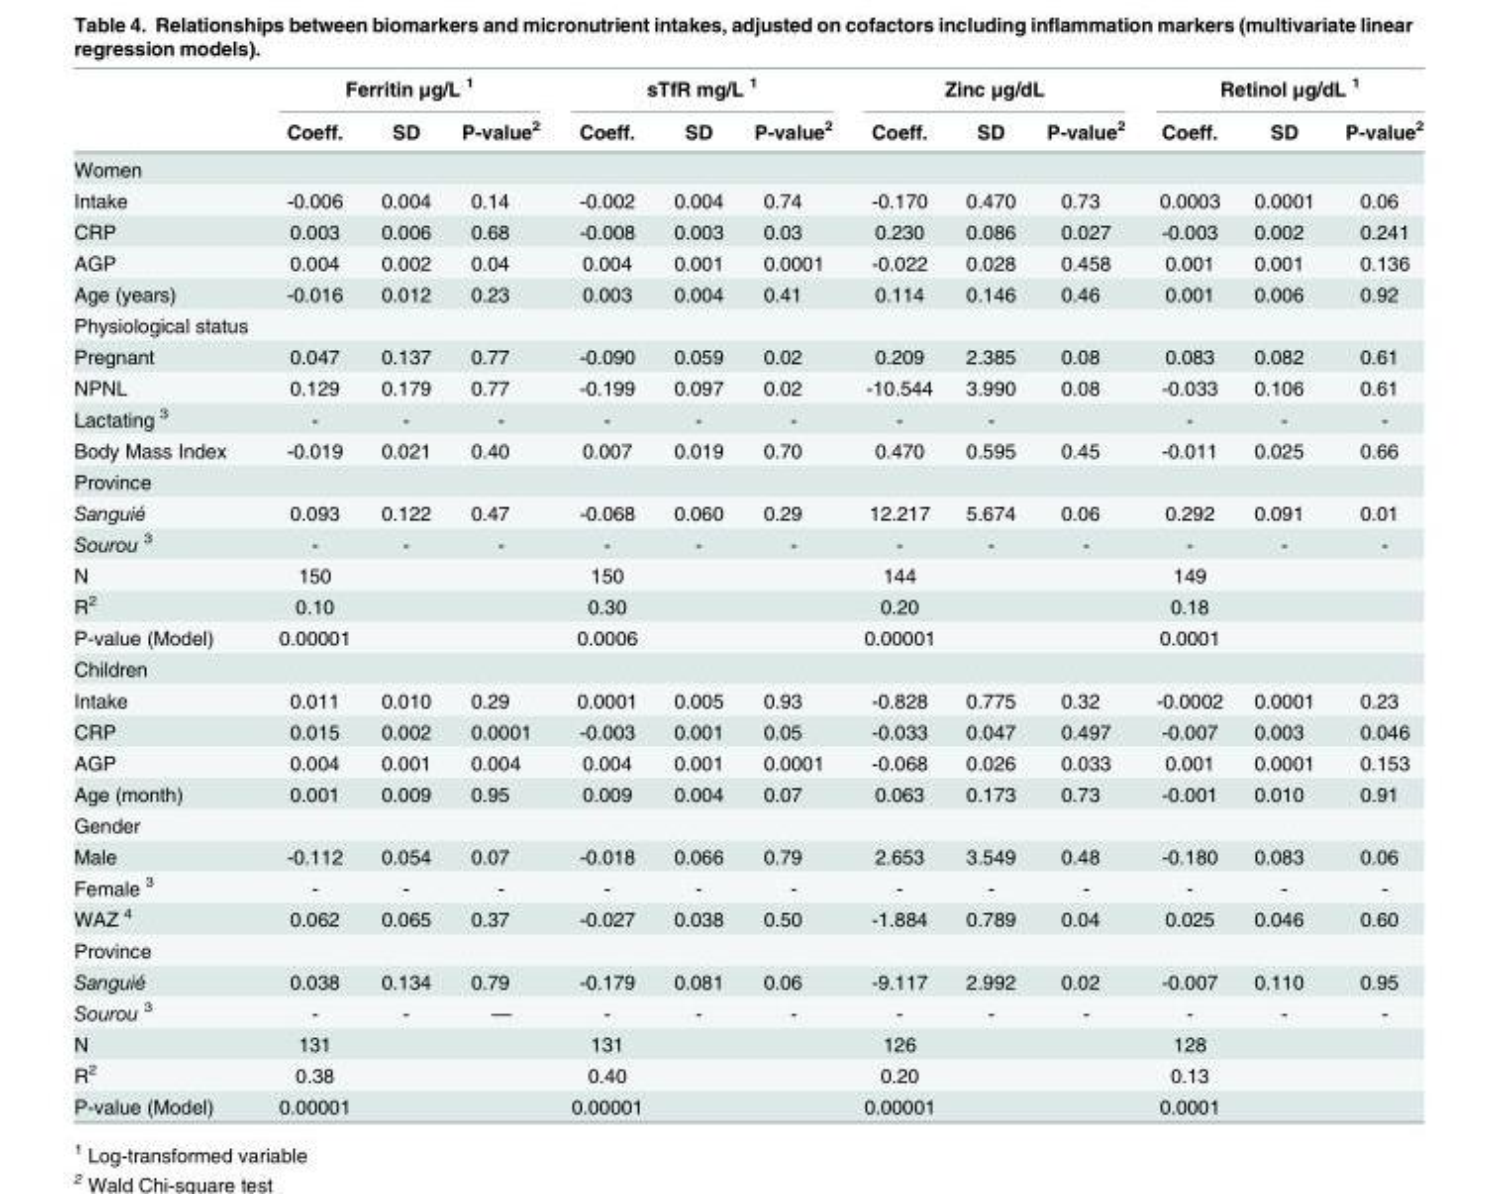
<table><thead><tr><td rowspan="2"></td><td colspan="3">Ferritin μg/L <sup>1</sup></td><td colspan="3">sTfR mg/L <sup>1</sup></td><td colspan="3">Zinc μg/dL</td><td colspan="3">Retinol μg/dL <sup>1</sup></td></tr><tr><td>Coeff.</td><td>SD</td><td>P-value<sup>2</sup></td><td>Coeff.</td><td>SD</td><td>P-value<sup>2</sup></td><td>Coeff.</td><td>SD</td><td>P-value<sup>2</sup></td><td>Coeff.</td><td>SD</td><td>P-value<sup>2</sup></td></tr></thead><tbody><tr><td colspan="13">Women</td></tr><tr><td>Intake</td><td>-0.006</td><td>0.004</td><td>0.14</td><td>-0.002</td><td>0.004</td><td>0.74</td><td>-0.170</td><td>0.470</td><td>0.73</td><td>0.0003</td><td>0.0001</td><td>0.06</td></tr><tr><td>CRP</td><td>0.003</td><td>0.006</td><td>0.68</td><td>-0.008</td><td>0.003</td><td>0.03</td><td>0.230</td><td>0.086</td><td>0.027</td><td>-0.003</td><td>0.002</td><td>0.241</td></tr><tr><td>AGP</td><td>0.004</td><td>0.002</td><td>0.04</td><td>0.004</td><td>0.001</td><td>0.0001</td><td>-0.022</td><td>0.028</td><td>0.458</td><td>0.001</td><td>0.001</td><td>0.136</td></tr><tr><td>Age (years)</td><td>-0.016</td><td>0.012</td><td>0.23</td><td>0.003</td><td>0.004</td><td>0.41</td><td>0.114</td><td>0.146</td><td>0.46</td><td>0.001</td><td>0.006</td><td>0.92</td></tr><tr><td colspan="13">Physiological status</td></tr><tr><td>Pregnant</td><td>0.047</td><td>0.137</td><td>0.77</td><td>-0.090</td><td>0.059</td><td>0.02</td><td>0.209</td><td>2.385</td><td>0.08</td><td>0.083</td><td>0.082</td><td>0.61</td></tr><tr><td>NPNL</td><td>0.129</td><td>0.179</td><td>0.77</td><td>-0.199</td><td>0.097</td><td>0.02</td><td>-10.544</td><td>3.990</td><td>0.08</td><td>-0.033</td><td>0.106</td><td>0.61</td></tr><tr><td>Lactating <sup>3</sup></td><td>-</td><td>-</td><td>-</td><td>-</td><td>-</td><td>-</td><td>-</td><td>-</td><td></td><td>-</td><td>-</td><td>-</td></tr><tr><td>Body Mass Index</td><td>-0.019</td><td>0.021</td><td>0.40</td><td>0.007</td><td>0.019</td><td>0.70</td><td>0.470</td><td>0.595</td><td>0.45</td><td>-0.011</td><td>0.025</td><td>0.66</td></tr><tr><td colspan="13">Province</td></tr><tr><td>Sanguié</td><td>0.093</td><td>0.122</td><td>0.47</td><td>-0.068</td><td>0.060</td><td>0.29</td><td>12.217</td><td>5.674</td><td>0.06</td><td>0.292</td><td>0.091</td><td>0.01</td></tr><tr><td>Sourou <sup>3</sup></td><td>-</td><td>-</td><td>-</td><td>-</td><td>-</td><td>-</td><td>-</td><td>-</td><td>-</td><td>-</td><td>-</td><td>-</td></tr><tr><td>N</td><td>150</td><td></td><td></td><td>150</td><td></td><td></td><td>144</td><td></td><td></td><td>149</td><td></td><td></td></tr><tr><td>R<sup>2</sup></td><td>0.10</td><td></td><td></td><td>0.30</td><td></td><td></td><td>0.20</td><td></td><td></td><td>0.18</td><td></td><td></td></tr><tr><td>P-value (Model)</td><td>0.00001</td><td></td><td></td><td>0.0006</td><td></td><td></td><td>0.00001</td><td></td><td></td><td>0.0001</td><td></td><td></td></tr><tr><td colspan="13">Children</td></tr><tr><td>Intake</td><td>0.011</td><td>0.010</td><td>0.29</td><td>0.0001</td><td>0.005</td><td>0.93</td><td>-0.828</td><td>0.775</td><td>0.32</td><td>-0.0002</td><td>0.0001</td><td>0.23</td></tr><tr><td>CRP</td><td>0.015</td><td>0.002</td><td>0.0001</td><td>-0.003</td><td>0.001</td><td>0.05</td><td>-0.033</td><td>0.047</td><td>0.497</td><td>-0.007</td><td>0.003</td><td>0.046</td></tr><tr><td>AGP</td><td>0.004</td><td>0.001</td><td>0.004</td><td>0.004</td><td>0.001</td><td>0.0001</td><td>-0.068</td><td>0.026</td><td>0.033</td><td>0.001</td><td>0.0001</td><td>0.153</td></tr><tr><td>Age (month)</td><td>0.001</td><td>0.009</td><td>0.95</td><td>0.009</td><td>0.004</td><td>0.07</td><td>0.063</td><td>0.173</td><td>0.73</td><td>-0.001</td><td>0.010</td><td>0.91</td></tr><tr><td colspan="13">Gender</td></tr><tr><td>Male</td><td>-0.112</td><td>0.054</td><td>0.07</td><td>-0.018</td><td>0.066</td><td>0.79</td><td>2.653</td><td>3.549</td><td>0.48</td><td>-0.180</td><td>0.083</td><td>0.06</td></tr><tr><td>Female <sup>3</sup></td><td>-</td><td>-</td><td>-</td><td>-</td><td>-</td><td>-</td><td>-</td><td>-</td><td>-</td><td>-</td><td>-</td><td>-</td></tr><tr><td>WAZ <sup>4</sup></td><td>0.062</td><td>0.065</td><td>0.37</td><td>-0.027</td><td>0.038</td><td>0.50</td><td>-1.884</td><td>0.789</td><td>0.04</td><td>0.025</td><td>0.046</td><td>0.60</td></tr><tr><td colspan="13">Province</td></tr><tr><td>Sanguié</td><td>0.038</td><td>0.134</td><td>0.79</td><td>-0.179</td><td>0.081</td><td>0.06</td><td>-9.117</td><td>2.992</td><td>0.02</td><td>-0.007</td><td>0.110</td><td>0.95</td></tr><tr><td>Sourou <sup>3</sup></td><td>-</td><td>-</td><td>—</td><td>-</td><td>-</td><td>-</td><td>-</td><td>-</td><td>-</td><td>-</td><td>-</td><td>-</td></tr><tr><td>N</td><td>131</td><td></td><td></td><td>131</td><td></td><td></td><td>126</td><td></td><td></td><td>128</td><td></td><td></td></tr><tr><td>R<sup>2</sup></td><td>0.38</td><td></td><td></td><td>0.40</td><td></td><td></td><td>0.20</td><td></td><td></td><td>0.13</td><td></td><td></td></tr><tr><td>P-value (Model)</td><td>0.00001</td><td></td><td></td><td>0.00001</td><td></td><td></td><td>0.00001</td><td></td><td></td><td>0.0001</td><td></td><td></td></tr></tbody></table>